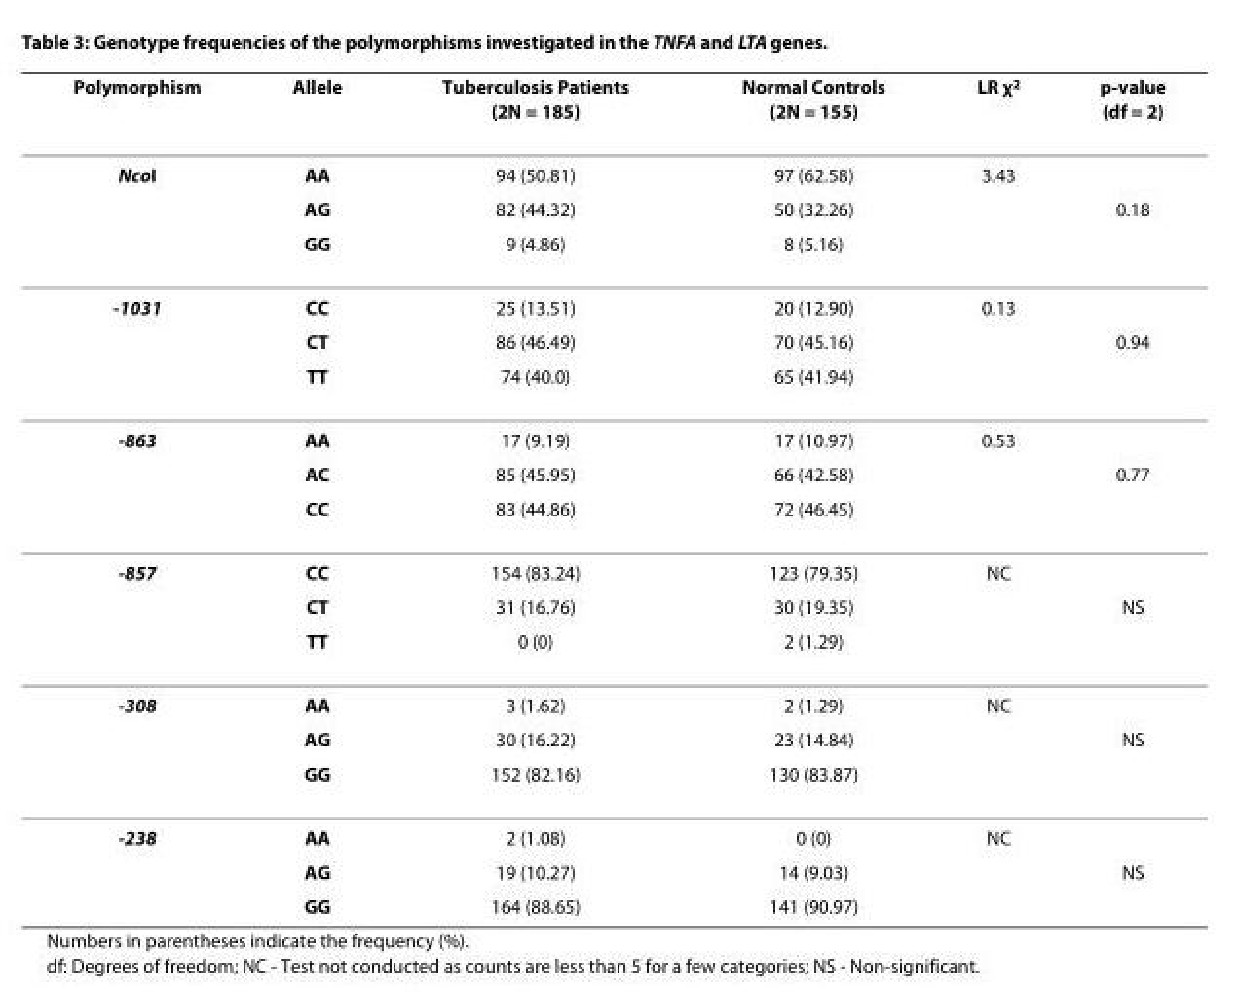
<table><thead><tr><td>Polymorphism</td><td>Allele</td><td>Tuberculosis Patients (2N = 185)</td><td>Normal Controls (2N = 155)</td><td>LR χ<sup>2</sup></td><td>p-value (df = 2)</td></tr></thead><tbody><tr><td rowspan="3">NcoI</td><td>AA</td><td>94 (50.81)</td><td>97 (62.58)</td><td>3.43</td><td></td></tr><tr><td>AG</td><td>82 (44.32)</td><td>50 (32.26)</td><td></td><td>0.18</td></tr><tr><td>GG</td><td>9 (4.86)</td><td>8 (5.16)</td><td></td><td></td></tr><tr><td rowspan="3">-1031</td><td>CC</td><td>25 (13.51)</td><td>20 (12.90)</td><td>0.13</td><td></td></tr><tr><td>CT</td><td>86 (46.49)</td><td>70 (45.16)</td><td></td><td>0.94</td></tr><tr><td>TT</td><td>74 (40.0)</td><td>65 (41.94)</td><td></td><td></td></tr><tr><td rowspan="3">-863</td><td>AA</td><td>17 (9.19)</td><td>17 (10.97)</td><td>0.53</td><td></td></tr><tr><td>AC</td><td>85 (45.95)</td><td>66 (42.58)</td><td></td><td>0.77</td></tr><tr><td>CC</td><td>83 (44.86)</td><td>72 (46.45)</td><td></td><td></td></tr><tr><td rowspan="3">-857</td><td>CC</td><td>154 (83.24)</td><td>123 (79.35)</td><td>NC</td><td></td></tr><tr><td>CT</td><td>31 (16.76)</td><td>30 (19.35)</td><td></td><td>NS</td></tr><tr><td>TT</td><td>0 (0)</td><td>2 (1.29)</td><td></td><td></td></tr><tr><td rowspan="3">-308</td><td>AA</td><td>3 (1.62)</td><td>2 (1.29)</td><td>NC</td><td></td></tr><tr><td>AG</td><td>30 (16.22)</td><td>23 (14.84)</td><td></td><td>NS</td></tr><tr><td>GG</td><td>152 (82.16)</td><td>130 (83.87)</td><td></td><td></td></tr><tr><td rowspan="3">-238</td><td>AA</td><td>2 (1.08)</td><td>0 (0)</td><td>NC</td><td></td></tr><tr><td>AG</td><td>19 (10.27)</td><td>14 (9.03)</td><td></td><td>NS</td></tr><tr><td>GG</td><td>164 (88.65)</td><td>141 (90.97)</td><td></td><td></td></tr></tbody></table>